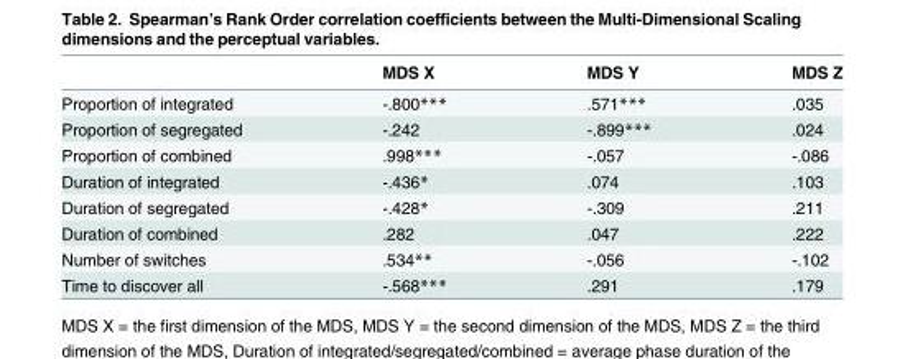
<table><thead><tr><td></td><td>MDS X</td><td>MDS Y</td><td>MDS Z</td></tr></thead><tbody><tr><td>Proportion of integrated</td><td>-.800***</td><td>.571***</td><td>.035</td></tr><tr><td>Proportion of segregated</td><td>-.242</td><td>-.899***</td><td>.024</td></tr><tr><td>Proportion of combined</td><td>.998***</td><td>-.057</td><td>-.086</td></tr><tr><td>Duration of integrated</td><td>-.436*</td><td>.074</td><td>.103</td></tr><tr><td>Duration of segregated</td><td>-.428*</td><td>-.309</td><td>.211</td></tr><tr><td>Duration of combined</td><td>.282</td><td>.047</td><td>.222</td></tr><tr><td>Number of switches</td><td>.534**</td><td>-.056</td><td>-.102</td></tr><tr><td>Time to discover all</td><td>-.568***</td><td>.291</td><td>.179</td></tr></tbody></table>